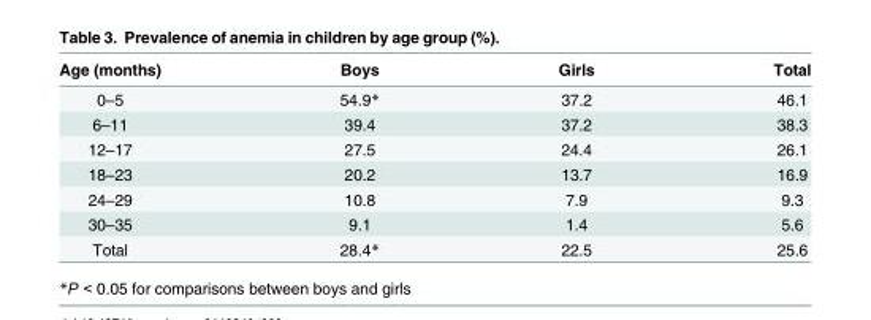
<table><thead><tr><td>Age (months)</td><td>Boys</td><td>Girls</td><td>Total</td></tr></thead><tbody><tr><td>0–5</td><td>54.9*</td><td>37.2</td><td>46.1</td></tr><tr><td>6–11</td><td>39.4</td><td>37.2</td><td>38.3</td></tr><tr><td>12–17</td><td>27.5</td><td>24.4</td><td>26.1</td></tr><tr><td>18–23</td><td>20.2</td><td>13.7</td><td>16.9</td></tr><tr><td>24–29</td><td>10.8</td><td>7.9</td><td>9.3</td></tr><tr><td>30–35</td><td>9.1</td><td>1.4</td><td>5.6</td></tr><tr><td>Total</td><td>28.4*</td><td>22.5</td><td>25.6</td></tr></tbody></table>